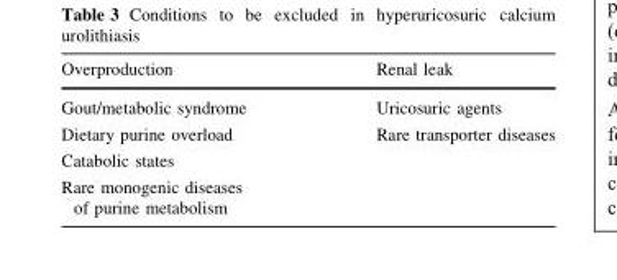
<table><thead><tr><td>Overproduction</td><td>Renal leak</td></tr></thead><tbody><tr><td>Gout/metabolic syndrome</td><td>Uricosuric agents</td></tr><tr><td>Dietary purine overload</td><td>Rare transporter diseases</td></tr><tr><td colspan="2">Catabolic states</td></tr><tr><td>Rare monogenic diseases of purine metabolism</td><td></td></tr></tbody></table>